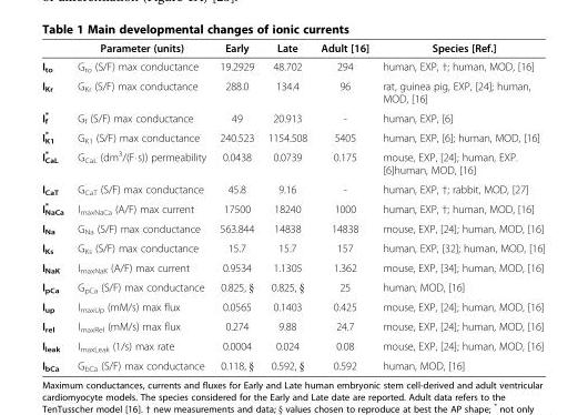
<table><thead><tr><td></td><td>Parameter (units)</td><td>Early</td><td>Late</td><td>Adult [16]</td><td>Species [Ref.]</td></tr></thead><tbody><tr><td>I<sub>to</sub></td><td>G<sub>to</sub> (S/F) max conductance</td><td>19.2929</td><td>48.702</td><td>294</td><td>human, EXP, †; human, MOD, [16]</td></tr><tr><td>I<sub>Kr</sub></td><td>G<sub>Kr</sub> (S/F) max conductance</td><td>288.0</td><td>134.4</td><td>96</td><td>rat, guinea pig, EXP, [24]; human, MOD, [16]</td></tr><tr><td>If *</td><td>G<sub>f</sub> (S/F) max conductance</td><td>49</td><td>20.913</td><td>-</td><td>human, EXP, [6]</td></tr><tr><td>IK1 *</td><td>G<sub>K1</sub> (S/F) max conductance</td><td>240.523</td><td>1154.508</td><td>5405</td><td>human, EXP, [6]; human, MOD, [16]</td></tr><tr><td>ICaL *</td><td>G<sub>CaL</sub> (dm<sup>3</sup>/(F⋅s)) permeability</td><td>0.0438</td><td>0.0739</td><td>0.175</td><td>mouse, EXP, [24]; human, EXP. [6]human, MOD, [16]</td></tr><tr><td>I<sub>CaT</sub></td><td>G<sub>CaT</sub> (S/F) max conductance</td><td>45.8</td><td>9.16</td><td>-</td><td>human, EXP, †; rabbit, MOD, [27]</td></tr><tr><td>INaCa *</td><td>I<sub>maxNaCa</sub> (A/F) max current</td><td>17500</td><td>18240</td><td>1000</td><td>human, EXP, †; human, MOD, [16]</td></tr><tr><td>I<sub>Na</sub></td><td>G<sub>Na</sub> (S/F) max conductance</td><td>563.844</td><td>14838</td><td>14838</td><td>mouse, EXP, [24]; human, MOD, [16]</td></tr><tr><td>I<sub>Ks</sub></td><td>G<sub>Ks</sub> (S/F) max conductance</td><td>15.7</td><td>15.7</td><td>157</td><td>human, EXP, [32]; human, MOD, [16]</td></tr><tr><td>I<sub>NaK</sub></td><td>I<sub>maxNaK</sub> (A/F) max current</td><td>0.9534</td><td>1.1305</td><td>1.362</td><td>mouse, EXP, [34]; human, MOD, [16]</td></tr><tr><td>I<sub>pCa</sub></td><td>G<sub>pCa</sub> (S/F) max conductance</td><td>0.825, §</td><td>0.825, §</td><td>25</td><td>human, MOD, [16]</td></tr><tr><td>I<sub>up</sub></td><td>I<sub>maxUp</sub> (mM/s) max flux</td><td>0.0565</td><td>0.1403</td><td>0.425</td><td>mouse, EXP, [24]; human, MOD, [16]</td></tr><tr><td>I<sub>rel</sub></td><td>I<sub>maxRel</sub> (mM/s) max flux</td><td>0.274</td><td>9.88</td><td>24.7</td><td>mouse, EXP, [24]; human, MOD, [16]</td></tr><tr><td>I<sub>leak</sub></td><td>I<sub>maxLeak</sub> (1/s) max rate</td><td>0.0004</td><td>0.024</td><td>0.08</td><td>mouse, EXP, [24]; human, MOD, [16]</td></tr><tr><td>I<sub>bCa</sub></td><td>G<sub>bCa</sub> (S/F) max conductance</td><td>0.118, §</td><td>0.592, §</td><td>0.592</td><td>human, MOD, [16]</td></tr></tbody></table>